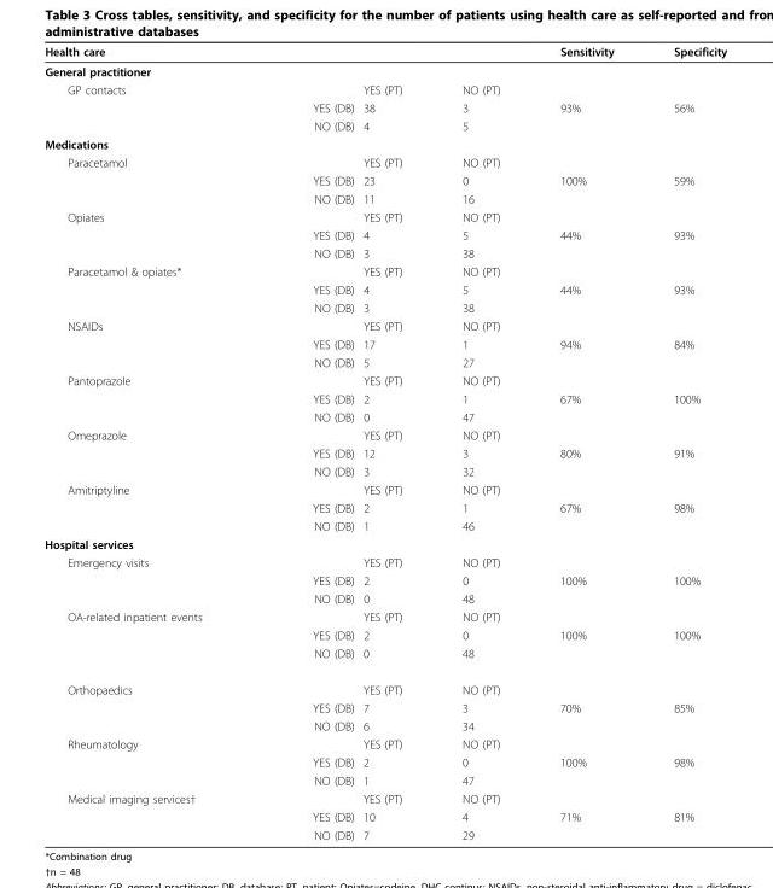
<table><thead><tr><td>Health care</td><td></td><td></td><td></td><td>Sensitivity</td><td>Specificity</td></tr></thead><tbody><tr><td colspan="6">General practitioner</td></tr><tr><td rowspan="3">GP contacts</td><td></td><td>YES (PT)</td><td>NO (PT)</td><td></td><td></td></tr><tr><td>YES (DB)</td><td>38</td><td>3</td><td>93%</td><td>56%</td></tr><tr><td>NO (DB)</td><td>4</td><td>5</td><td></td><td></td></tr><tr><td colspan="6">Medications</td></tr><tr><td rowspan="3">Paracetamol</td><td></td><td>YES (PT)</td><td>NO (PT)</td><td></td><td></td></tr><tr><td>YES (DB)</td><td>23</td><td>0</td><td>100%</td><td>59%</td></tr><tr><td>NO (DB)</td><td>11</td><td>16</td><td></td><td></td></tr><tr><td rowspan="3">Opiates</td><td></td><td>YES (PT)</td><td>NO (PT)</td><td></td><td></td></tr><tr><td>YES (DB)</td><td>4</td><td>5</td><td>44%</td><td>93%</td></tr><tr><td>NO (DB)</td><td>3</td><td>38</td><td></td><td></td></tr><tr><td rowspan="3">Paracetamol &amp; opiates*</td><td></td><td>YES (PT)</td><td>NO (PT)</td><td></td><td></td></tr><tr><td>YES (DB)</td><td>4</td><td>5</td><td>44%</td><td>93%</td></tr><tr><td>NO (DB)</td><td>3</td><td>38</td><td></td><td></td></tr><tr><td rowspan="3">NSAIDs</td><td></td><td>YES (PT)</td><td>NO (PT)</td><td></td><td></td></tr><tr><td>YES (DB)</td><td>17</td><td>1</td><td>94%</td><td>84%</td></tr><tr><td>NO (DB)</td><td>5</td><td>27</td><td></td><td></td></tr><tr><td rowspan="3">Pantoprazole</td><td></td><td>YES (PT)</td><td>NO (PT)</td><td></td><td></td></tr><tr><td>YES (DB)</td><td>2</td><td>1</td><td>67%</td><td>100%</td></tr><tr><td>NO (DB)</td><td>0</td><td>47</td><td></td><td></td></tr><tr><td rowspan="3">Omeprazole</td><td></td><td>YES (PT)</td><td>NO (PT)</td><td></td><td></td></tr><tr><td>YES (DB)</td><td>12</td><td>3</td><td>80%</td><td>91%</td></tr><tr><td>NO (DB)</td><td>3</td><td>32</td><td></td><td></td></tr><tr><td rowspan="3">Amitriptyline</td><td></td><td>YES (PT)</td><td>NO (PT)</td><td></td><td></td></tr><tr><td>YES (DB)</td><td>2</td><td>1</td><td>67%</td><td>98%</td></tr><tr><td>NO (DB)</td><td>1</td><td>46</td><td></td><td></td></tr><tr><td colspan="6">Hospital services</td></tr><tr><td rowspan="3">Emergency visits</td><td></td><td>YES (PT)</td><td>NO (PT)</td><td></td><td></td></tr><tr><td>YES (DB)</td><td>2</td><td>0</td><td>100%</td><td>100%</td></tr><tr><td>NO (DB)</td><td>0</td><td>48</td><td></td><td></td></tr><tr><td rowspan="3">OA-related inpatient events</td><td></td><td>YES (PT)</td><td>NO (PT)</td><td></td><td></td></tr><tr><td>YES (DB)</td><td>2</td><td>0</td><td>100%</td><td>100%</td></tr><tr><td>NO (DB)</td><td>0</td><td>48</td><td></td><td></td></tr><tr><td rowspan="3">Orthopaedics</td><td></td><td>YES (PT)</td><td>NO (PT)</td><td></td><td></td></tr><tr><td>YES (DB)</td><td>7</td><td>3</td><td>70%</td><td>85%</td></tr><tr><td>NO (DB)</td><td>6</td><td>34</td><td></td><td></td></tr><tr><td rowspan="3">Rheumatology</td><td></td><td>YES (PT)</td><td>NO (PT)</td><td></td><td></td></tr><tr><td>YES (DB)</td><td>2</td><td>0</td><td>100%</td><td>98%</td></tr><tr><td>NO (DB)</td><td>1</td><td>47</td><td></td><td></td></tr><tr><td rowspan="3">Medical imaging services†</td><td></td><td>YES (PT)</td><td>NO (PT)</td><td></td><td></td></tr><tr><td>YES (DB)</td><td>10</td><td>4</td><td>71%</td><td>81%</td></tr><tr><td>NO (DB)</td><td>7</td><td>29</td><td></td><td></td></tr></tbody></table>